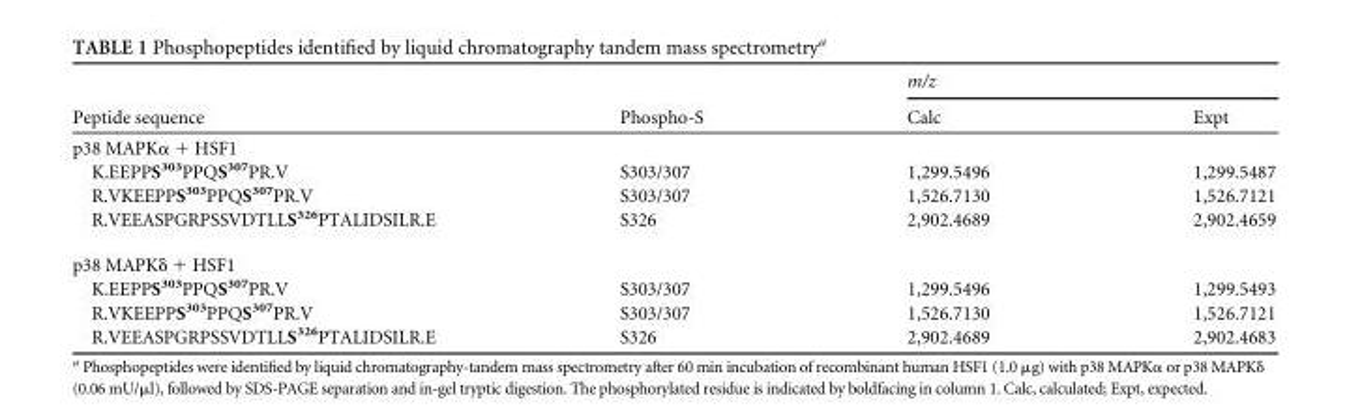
<table><thead><tr><td rowspan="2">Peptide sequence</td><td rowspan="2">Phospho-S</td><td colspan="2">m/z</td></tr><tr><td>Calc</td><td>Expt</td></tr></thead><tbody><tr><td colspan="4">p38 MAPKα + HSF1</td></tr><tr><td>K.EEPPS<sup>303</sup>PPQS<sup>307</sup>PR.V</td><td>S303/307</td><td>1,299.5496</td><td>1,299.5487</td></tr><tr><td>R.VKEEPPS<sup>303</sup>PPQS<sup>307</sup>PR.V</td><td>S303/307</td><td>1,526.7130</td><td>1,526.7121</td></tr><tr><td>R.VEEASPGRPSSVDTLLS<sup>326</sup>PTALIDSILR.E</td><td>S326</td><td>2,902.4689</td><td>2,902.4659</td></tr><tr><td colspan="4">p38 MAPKδ + HSF1</td></tr><tr><td>K.EEPPS<sup>303</sup>PPQS<sup>307</sup>PR.V</td><td>S303/307</td><td>1,299.5496</td><td>1,299.5493</td></tr><tr><td>R.VKEEPPS<sup>303</sup>PPQS<sup>307</sup>PR.V</td><td>S303/307</td><td>1,526.7130</td><td>1,526.7121</td></tr><tr><td>R.VEEASPGRPSSVDTLLS<sup>326</sup>PTALIDSILR.E</td><td>S326</td><td>2,902.4689</td><td>2,902.4683</td></tr></tbody></table>